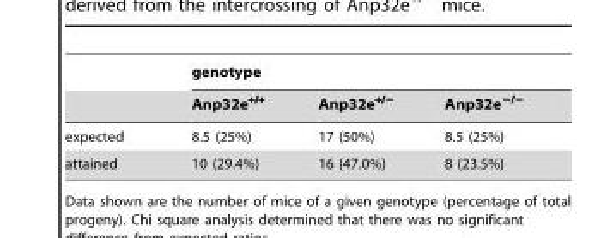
<table><thead><tr><td rowspan="2"></td><td colspan="3">genotype</td></tr><tr><td>Anp32e<sup>+/+</sup></td><td>Anp32e<sup>+/−</sup></td><td>Anp32e<sup>−/−</sup></td></tr></thead><tbody><tr><td>expected</td><td>8.5 (25%)</td><td>17 (50%)</td><td>8.5 (25%)</td></tr><tr><td>attained</td><td>10 (29.4%)</td><td>16 (47.0%)</td><td>8 (23.5%)</td></tr></tbody></table>